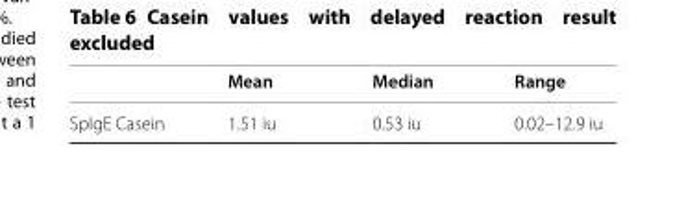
<table><thead><tr><td></td><td>Mean</td><td>Median</td><td>Range</td></tr></thead><tbody><tr><td>SpIgE Casein</td><td>1.51 iu</td><td>0.53 iu</td><td>0.02–12.9 iu</td></tr></tbody></table>